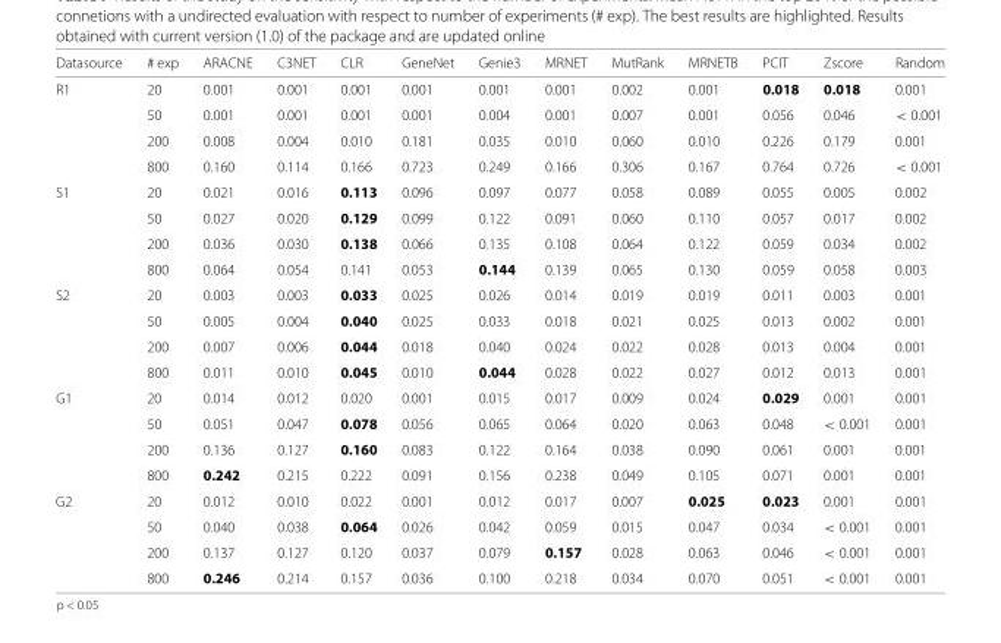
<table><thead><tr><td>Datasource</td><td># exp</td><td>ARACNE</td><td>C3NET</td><td>CLR</td><td>GeneNet</td><td>Genie3</td><td>MRNET</td><td>MutRank</td><td>MRNETB</td><td>PCIT</td><td>Zscore</td><td>Random</td></tr></thead><tbody><tr><td rowspan="4">R1</td><td>20</td><td>0.001</td><td>0.001</td><td>0.001</td><td>0.001</td><td>0.001</td><td>0.001</td><td>0.002</td><td>0.001</td><td>0.018</td><td>0.018</td><td>0.001</td></tr><tr><td>50</td><td>0.001</td><td>0.001</td><td>0.001</td><td>0.001</td><td>0.004</td><td>0.001</td><td>0.007</td><td>0.001</td><td>0.056</td><td>0.046</td><td>&lt; 0.001</td></tr><tr><td>200</td><td>0.008</td><td>0.004</td><td>0.010</td><td>0.181</td><td>0.035</td><td>0.010</td><td>0.060</td><td>0.010</td><td>0.226</td><td>0.179</td><td>0.001</td></tr><tr><td>800</td><td>0.160</td><td>0.114</td><td>0.166</td><td>0.723</td><td>0.249</td><td>0.166</td><td>0.306</td><td>0.167</td><td>0.764</td><td>0.726</td><td>&lt; 0.001</td></tr><tr><td rowspan="4">S1</td><td>20</td><td>0.021</td><td>0.016</td><td>0.113</td><td>0.096</td><td>0.097</td><td>0.077</td><td>0.058</td><td>0.089</td><td>0.055</td><td>0.005</td><td>0.002</td></tr><tr><td>50</td><td>0.027</td><td>0.020</td><td>0.129</td><td>0.099</td><td>0.122</td><td>0.091</td><td>0.060</td><td>0.110</td><td>0.057</td><td>0.017</td><td>0.002</td></tr><tr><td>200</td><td>0.036</td><td>0.030</td><td>0.138</td><td>0.066</td><td>0.135</td><td>0.108</td><td>0.064</td><td>0.122</td><td>0.059</td><td>0.034</td><td>0.002</td></tr><tr><td>800</td><td>0.064</td><td>0.054</td><td>0.141</td><td>0.053</td><td>0.144</td><td>0.139</td><td>0.065</td><td>0.130</td><td>0.059</td><td>0.058</td><td>0.003</td></tr><tr><td rowspan="4">S2</td><td>20</td><td>0.003</td><td>0.003</td><td>0.033</td><td>0.025</td><td>0.026</td><td>0.014</td><td>0.019</td><td>0.019</td><td>0.011</td><td>0.003</td><td>0.001</td></tr><tr><td>50</td><td>0.005</td><td>0.004</td><td>0.040</td><td>0.025</td><td>0.033</td><td>0.018</td><td>0.021</td><td>0.025</td><td>0.013</td><td>0.002</td><td>0.001</td></tr><tr><td>200</td><td>0.007</td><td>0.006</td><td>0.044</td><td>0.018</td><td>0.040</td><td>0.024</td><td>0.022</td><td>0.028</td><td>0.013</td><td>0.004</td><td>0.001</td></tr><tr><td>800</td><td>0.011</td><td>0.010</td><td>0.045</td><td>0.010</td><td>0.044</td><td>0.028</td><td>0.022</td><td>0.027</td><td>0.012</td><td>0.013</td><td>0.001</td></tr><tr><td rowspan="4">G1</td><td>20</td><td>0.014</td><td>0.012</td><td>0.020</td><td>0.001</td><td>0.015</td><td>0.017</td><td>0.009</td><td>0.024</td><td>0.029</td><td>0.001</td><td>0.001</td></tr><tr><td>50</td><td>0.051</td><td>0.047</td><td>0.078</td><td>0.056</td><td>0.065</td><td>0.064</td><td>0.020</td><td>0.063</td><td>0.048</td><td>&lt; 0.001</td><td>0.001</td></tr><tr><td>200</td><td>0.136</td><td>0.127</td><td>0.160</td><td>0.083</td><td>0.122</td><td>0.164</td><td>0.038</td><td>0.090</td><td>0.061</td><td>0.001</td><td>0.001</td></tr><tr><td>800</td><td>0.242</td><td>0.215</td><td>0.222</td><td>0.091</td><td>0.156</td><td>0.238</td><td>0.049</td><td>0.105</td><td>0.071</td><td>0.001</td><td>0.001</td></tr><tr><td rowspan="4">G2</td><td>20</td><td>0.012</td><td>0.010</td><td>0.022</td><td>0.001</td><td>0.012</td><td>0.017</td><td>0.007</td><td>0.025</td><td>0.023</td><td>0.001</td><td>0.001</td></tr><tr><td>50</td><td>0.040</td><td>0.038</td><td>0.064</td><td>0.026</td><td>0.042</td><td>0.059</td><td>0.015</td><td>0.047</td><td>0.034</td><td>&lt; 0.001</td><td>0.001</td></tr><tr><td>200</td><td>0.137</td><td>0.127</td><td>0.120</td><td>0.037</td><td>0.079</td><td>0.157</td><td>0.028</td><td>0.063</td><td>0.046</td><td>&lt; 0.001</td><td>0.001</td></tr><tr><td>800</td><td>0.246</td><td>0.214</td><td>0.157</td><td>0.036</td><td>0.100</td><td>0.218</td><td>0.034</td><td>0.070</td><td>0.051</td><td>&lt; 0.001</td><td>0.001</td></tr></tbody></table>